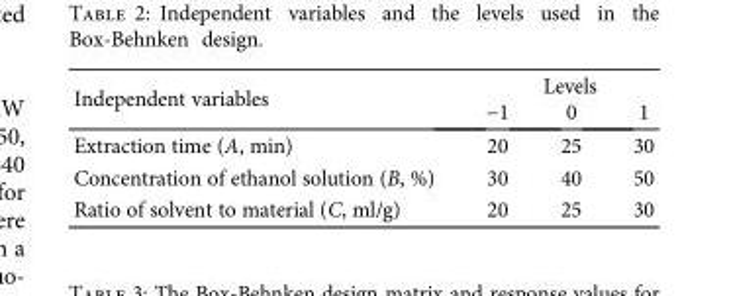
<table><thead><tr><td rowspan="2">Independent variables</td><td colspan="3">Levels</td></tr><tr><td>−1</td><td>0</td><td>1</td></tr></thead><tbody><tr><td>Extraction time (A, min)</td><td>20</td><td>25</td><td>30</td></tr><tr><td>Concentration of ethanol solution (B, %)</td><td>30</td><td>40</td><td>50</td></tr><tr><td>Ratio of solvent to material (C, ml/g)</td><td>20</td><td>25</td><td>30</td></tr></tbody></table>